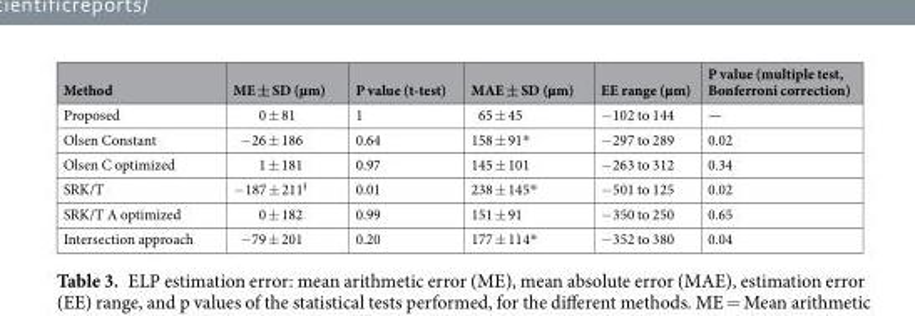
<table><thead><tr><td>Method</td><td>ME ± SD (µm)</td><td>P value (t-test)</td><td>MAE ± SD (µm)</td><td>EE range (µm)</td><td>P value (multiple test, Bonferroni correction)</td></tr></thead><tbody><tr><td>Proposed</td><td>0 ± 81</td><td>1</td><td>65 ± 45</td><td>−102 to 144</td><td>—</td></tr><tr><td>Olsen Constant</td><td>−26 ± 186</td><td>0.64</td><td>158 ± 91*</td><td>−297 to 289</td><td>0.02</td></tr><tr><td>Olsen C optimized</td><td>1 ± 181</td><td>0.97</td><td>145 ± 101</td><td>−263 to 312</td><td>0.34</td></tr><tr><td>SRK/T</td><td>−187 ± 211<sup>Ɨ</sup></td><td>0.01</td><td>238 ± 145*</td><td>−501 to 125</td><td>0.02</td></tr><tr><td>SRK/T A optimized</td><td>0 ± 182</td><td>0.99</td><td>151 ± 91</td><td>−350 to 250</td><td>0.65</td></tr><tr><td>Intersection approach</td><td>−79 ± 201</td><td>0.20</td><td>177 ± 114*</td><td>−352 to 380</td><td>0.04</td></tr></tbody></table>